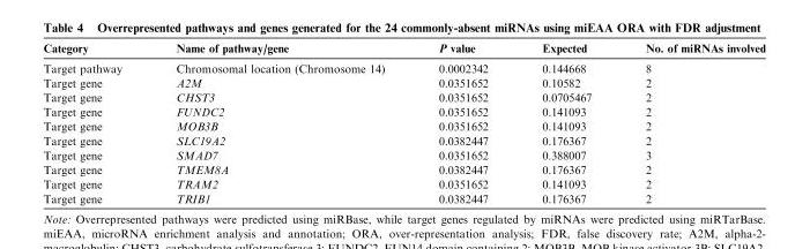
<table><thead><tr><td>Category</td><td>Name of pathway/gene</td><td>P value</td><td>Expected</td><td>No. of miRNAs involved</td></tr></thead><tbody><tr><td>Target pathway</td><td>Chromosomal location (Chromosome 14)</td><td>0.0002342</td><td>0.144668</td><td>8</td></tr><tr><td>Target gene</td><td>A2M</td><td>0.0351652</td><td>0.10582</td><td>2</td></tr><tr><td>Target gene</td><td>CHST3</td><td>0.0351652</td><td>0.0705467</td><td>2</td></tr><tr><td>Target gene</td><td>FUNDC2</td><td>0.0351652</td><td>0.141093</td><td>2</td></tr><tr><td>Target gene</td><td>MOB3B</td><td>0.0351652</td><td>0.141093</td><td>2</td></tr><tr><td>Target gene</td><td>SLC19A2</td><td>0.0382447</td><td>0.176367</td><td>2</td></tr><tr><td>Target gene</td><td>SMAD7</td><td>0.0351652</td><td>0.388007</td><td>3</td></tr><tr><td>Target gene</td><td>TMEM8A</td><td>0.0382447</td><td>0.176367</td><td>2</td></tr><tr><td>Target gene</td><td>TRAM2</td><td>0.0351652</td><td>0.141093</td><td>2</td></tr><tr><td>Target gene</td><td>TRIB1</td><td>0.0382447</td><td>0.176367</td><td>2</td></tr></tbody></table>